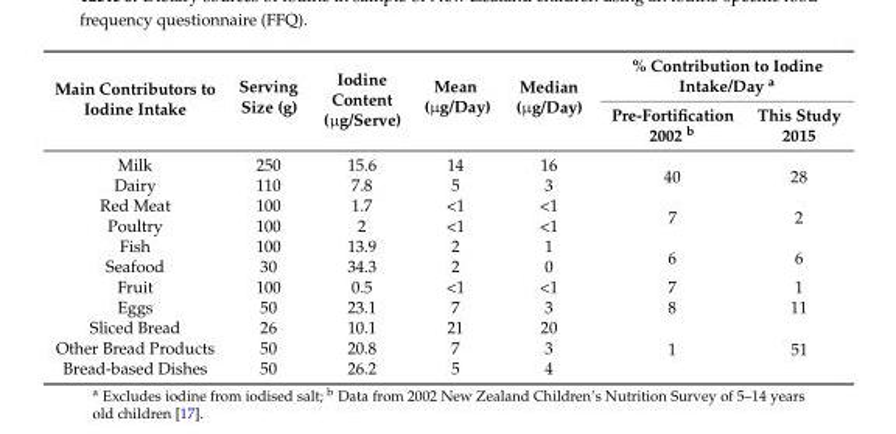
<table><thead><tr><td rowspan="2">Main Contributors to Iodine Intake</td><td rowspan="2">Serving Size (g)</td><td rowspan="2">Iodine Content (µg/Serve)</td><td rowspan="2">Mean (µg/Day)</td><td rowspan="2">Median (µg/Day)</td><td colspan="2">% Contribution to Iodine Intake/Day <sup>a</sup></td></tr><tr><td>Pre-Fortification 2002 <sup>b</sup></td><td>This Study 2015</td></tr></thead><tbody><tr><td>Milk</td><td>250</td><td>15.6</td><td>14</td><td>16</td><td rowspan="2">40</td><td rowspan="2">28</td></tr><tr><td>Dairy</td><td>110</td><td>7.8</td><td>5</td><td>3</td></tr><tr><td>Red Meat</td><td>100</td><td>1.7</td><td>&lt;1</td><td>&lt;1</td><td rowspan="2">7</td><td rowspan="2">2</td></tr><tr><td>Poultry</td><td>100</td><td>2</td><td>&lt;1</td><td>&lt;1</td></tr><tr><td>Fish</td><td>100</td><td>13.9</td><td>2</td><td>1</td><td rowspan="2">6</td><td rowspan="2">6</td></tr><tr><td>Seafood</td><td>30</td><td>34.3</td><td>2</td><td>0</td></tr><tr><td>Fruit</td><td>100</td><td>0.5</td><td>&lt;1</td><td>&lt;1</td><td>7</td><td>1</td></tr><tr><td>Eggs</td><td>50</td><td>23.1</td><td>7</td><td>3</td><td>8</td><td>11</td></tr><tr><td>Sliced Bread</td><td>26</td><td>10.1</td><td>21</td><td>20</td><td rowspan="3">1</td><td rowspan="3">51</td></tr><tr><td>Other Bread Products</td><td>50</td><td>20.8</td><td>7</td><td>3</td></tr><tr><td>Bread-based Dishes</td><td>50</td><td>26.2</td><td>5</td><td>4</td></tr></tbody></table>